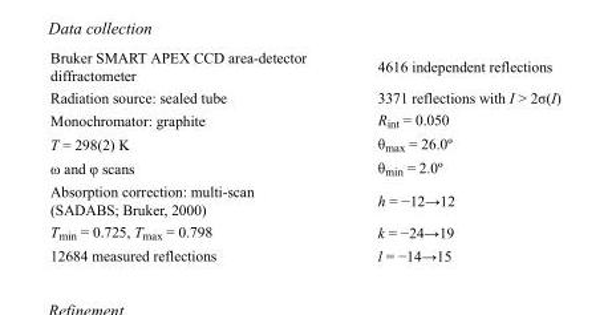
<table><tbody><tr><td>Bruker SMART APEX CCD area-detector diffractometer</td><td>4616 independent reflections</td></tr><tr><td>Radiation source: sealed tube</td><td>3371 reflections with I &gt; 2σ(I)</td></tr><tr><td>Monochromator: graphite</td><td>R<sub>int</sub> = 0.050</td></tr><tr><td>T = 298(2) K</td><td>θ<sub>max</sub> = 26.0º</td></tr><tr><td>ω and φ scans</td><td>θ<sub>min</sub> = 2.0º</td></tr><tr><td>Absorption correction: multi-scan (SADABS; Bruker, 2000)</td><td>h = −12→12</td></tr><tr><td>T<sub>min</sub> = 0.725, T<sub>max</sub> = 0.798</td><td>k = −24→19</td></tr><tr><td>12684 measured reflections</td><td>l = −14→15</td></tr></tbody></table>